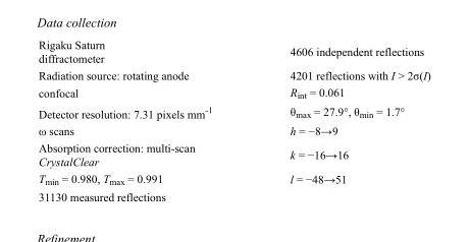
<table><tbody><tr><td>Rigaku Saturn diffractometer</td><td>4606 independent reflections</td></tr><tr><td>Radiation source: rotating anode</td><td>4201 reflections with I &gt; 2σ(I)</td></tr><tr><td>confocal</td><td>R<sub>int</sub> = 0.061</td></tr><tr><td>Detector resolution: 7.31 pixels mm<sup>-1</sup></td><td>θ<sub>max</sub> = 27.9°, θ<sub>min</sub> = 1.7°</td></tr><tr><td>ω scans</td><td>h = −8→9</td></tr><tr><td>Absorption correction: multi-scan CrystalClear</td><td>k = −16→16</td></tr><tr><td>T<sub>min</sub> = 0.980, T<sub>max</sub> = 0.991</td><td>l = −48→51</td></tr><tr><td>31130 measured reflections</td><td></td></tr></tbody></table>